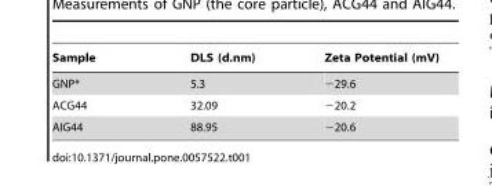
<table><thead><tr><td>Sample</td><td>DLS (d.nm)</td><td>Zeta Potential (mV)</td></tr></thead><tbody><tr><td>GNP*</td><td>5.3</td><td>−29.6</td></tr><tr><td>ACG44</td><td>32.09</td><td>−20.2</td></tr><tr><td>AIG44</td><td>88.95</td><td>−20.6</td></tr></tbody></table>